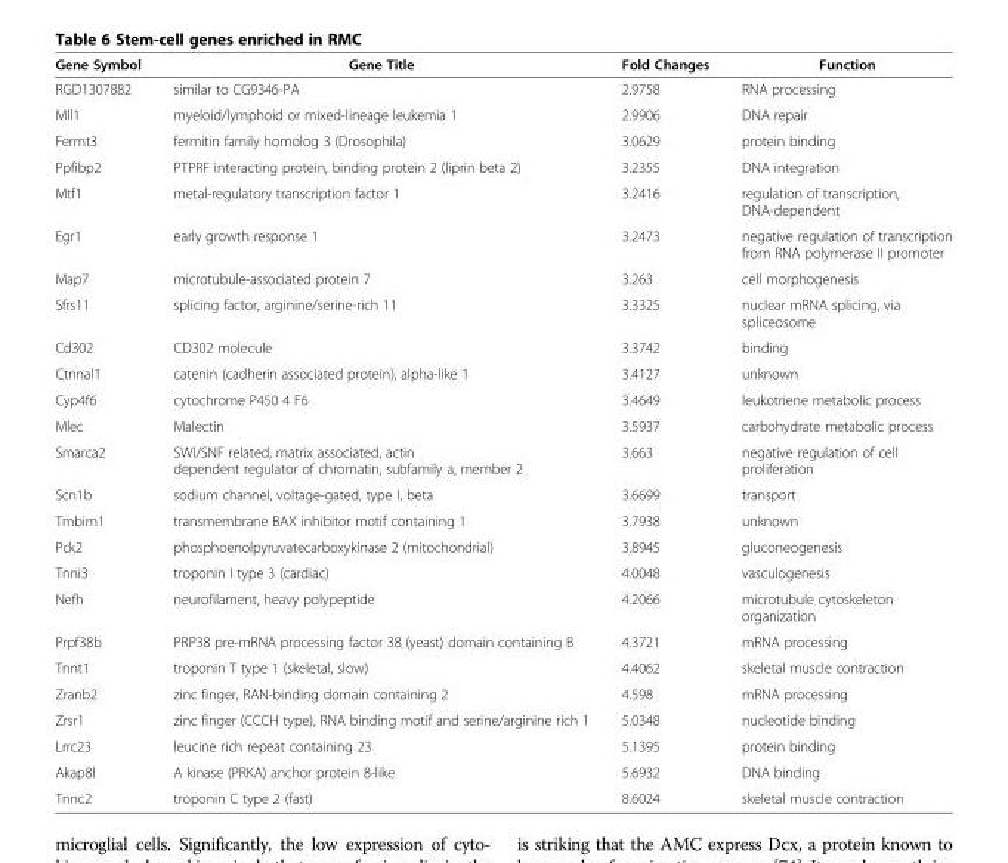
<table><thead><tr><td>Gene Symbol</td><td>Gene Title</td><td>Fold Changes</td><td>Function</td></tr></thead><tbody><tr><td>RGD1307882</td><td>similar to CG9346-PA</td><td>2.9758</td><td>RNA processing</td></tr><tr><td>Mll1</td><td>myeloid/lymphoid or mixed-lineage leukemia 1</td><td>2.9906</td><td>DNA repair</td></tr><tr><td>Fermt3</td><td>fermitin family homolog 3 (Drosophila)</td><td>3.0629</td><td>protein binding</td></tr><tr><td>Ppfibp2</td><td>PTPRF interacting protein, binding protein 2 (liprin beta 2)</td><td>3.2355</td><td>DNA integration</td></tr><tr><td>Mtf1</td><td>metal-regulatory transcription factor 1</td><td>3.2416</td><td>regulation of transcription, DNA-dependent</td></tr><tr><td>Egr1</td><td>early growth response 1</td><td>3.2473</td><td>negative regulation of transcription from RNA polymerase II promoter</td></tr><tr><td>Map7</td><td>microtubule-associated protein 7</td><td>3.263</td><td>cell morphogenesis</td></tr><tr><td>Sfrs11</td><td>splicing factor, arginine/serine-rich 11</td><td>3.3325</td><td>nuclear mRNA splicing, via spliceosome</td></tr><tr><td>Cd302</td><td>CD302 molecule</td><td>3.3742</td><td>binding</td></tr><tr><td>Ctnnal1</td><td>catenin (cadherin associated protein), alpha-like 1</td><td>3.4127</td><td>unknown</td></tr><tr><td>Cyp4f6</td><td>cytochrome P450 4 F6</td><td>3.4649</td><td>leukotriene metabolic process</td></tr><tr><td>Mlec</td><td>Malectin</td><td>3.5937</td><td>carbohydrate metabolic process</td></tr><tr><td>Smarca2</td><td>SWI/SNF related, matrix associated, actin dependent regulator of chromatin, subfamily a, member 2</td><td>3.663</td><td>negative regulation of cell proliferation</td></tr><tr><td>Scn1b</td><td>sodium channel, voltage-gated, type I, beta</td><td>3.6699</td><td>transport</td></tr><tr><td>Tmbim1</td><td>transmembrane BAX inhibitor motif containing 1</td><td>3.7938</td><td>unknown</td></tr><tr><td>Pck2</td><td>phosphoenolpyruvatecarboxykinase 2 (mitochondrial)</td><td>3.8945</td><td>gluconeogenesis</td></tr><tr><td>Tnni3</td><td>troponin I type 3 (cardiac)</td><td>4.0048</td><td>vasculogenesis</td></tr><tr><td>Nefh</td><td>neurofilament, heavy polypeptide</td><td>4.2066</td><td>microtubule cytoskeleton organization</td></tr><tr><td>Prpf38b</td><td>PRP38 pre-mRNA processing factor 38 (yeast) domain containing B</td><td>4.3721</td><td>mRNA processing</td></tr><tr><td>Tnnt1</td><td>troponin T type 1 (skeletal, slow)</td><td>4.4062</td><td>skeletal muscle contraction</td></tr><tr><td>Zranb2</td><td>zinc finger, RAN-binding domain containing 2</td><td>4.598</td><td>mRNA processing</td></tr><tr><td>Zrsr1</td><td>zinc finger (CCCH type), RNA binding motif and serine/arginine rich 1</td><td>5.0348</td><td>nucleotide binding</td></tr><tr><td>Lrrc23</td><td>leucine rich repeat containing 23</td><td>5.1395</td><td>protein binding</td></tr><tr><td>Akap8l</td><td>A kinase (PRKA) anchor protein 8-like</td><td>5.6932</td><td>DNA binding</td></tr><tr><td>Tnnc2</td><td>troponin C type 2 (fast)</td><td>8.6024</td><td>skeletal muscle contraction</td></tr></tbody></table>